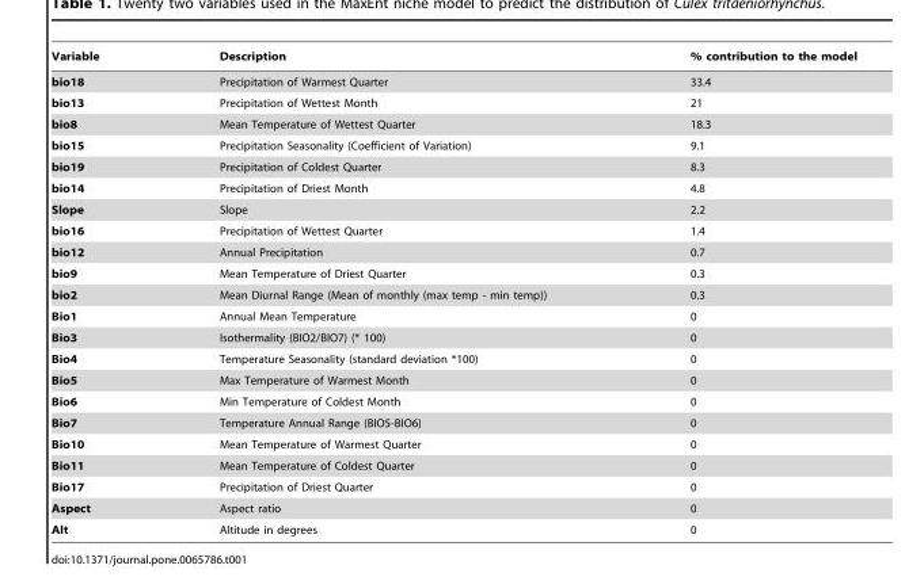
<table><thead><tr><td>Variable</td><td>Description</td><td>% contribution to the model</td></tr></thead><tbody><tr><td>bio18</td><td>Precipitation of Warmest Quarter</td><td>33.4</td></tr><tr><td>bio13</td><td>Precipitation of Wettest Month</td><td>21</td></tr><tr><td>bio8</td><td>Mean Temperature of Wettest Quarter</td><td>18.3</td></tr><tr><td>bio15</td><td>Precipitation Seasonality (Coefficient of Variation)</td><td>9.1</td></tr><tr><td>bio19</td><td>Precipitation of Coldest Quarter</td><td>8.3</td></tr><tr><td>bio14</td><td>Precipitation of Driest Month</td><td>4.8</td></tr><tr><td>Slope</td><td>Slope</td><td>2.2</td></tr><tr><td>bio16</td><td>Precipitation of Wettest Quarter</td><td>1.4</td></tr><tr><td>bio12</td><td>Annual Precipitation</td><td>0.7</td></tr><tr><td>bio9</td><td>Mean Temperature of Driest Quarter</td><td>0.3</td></tr><tr><td>bio2</td><td>Mean Diurnal Range (Mean of monthly (max temp - min temp))</td><td>0.3</td></tr><tr><td>Bio1</td><td>Annual Mean Temperature</td><td>0</td></tr><tr><td>Bio3</td><td>Isothermality (BIO2/BIO7) (* 100)</td><td>0</td></tr><tr><td>Bio4</td><td>Temperature Seasonality (standard deviation *100)</td><td>0</td></tr><tr><td>Bio5</td><td>Max Temperature of Warmest Month</td><td>0</td></tr><tr><td>Bio6</td><td>Min Temperature of Coldest Month</td><td>0</td></tr><tr><td>Bio7</td><td>Temperature Annual Range (BIO5-BIO6)</td><td>0</td></tr><tr><td>Bio10</td><td>Mean Temperature of Warmest Quarter</td><td>0</td></tr><tr><td>Bio11</td><td>Mean Temperature of Coldest Quarter</td><td>0</td></tr><tr><td>Bio17</td><td>Precipitation of Driest Quarter</td><td>0</td></tr><tr><td>Aspect</td><td>Aspect ratio</td><td>0</td></tr><tr><td>Alt</td><td>Altitude in degrees</td><td>0</td></tr></tbody></table>